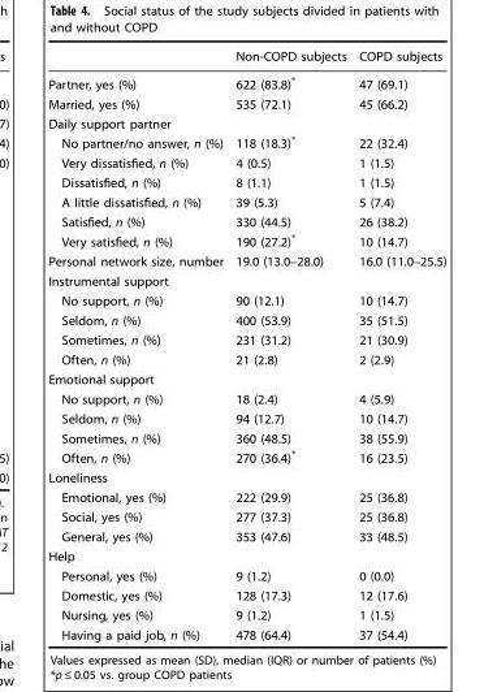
<table><thead><tr><td></td><td>Non-COPD subjects</td><td>COPD subjects</td></tr></thead><tbody><tr><td>Partner, yes (%)</td><td>622 (83.8)*</td><td>47 (69.1)</td></tr><tr><td>Married, yes (%)</td><td>535 (72.1)</td><td>45 (66.2)</td></tr><tr><td colspan="3">Daily support partner</td></tr><tr><td>No partner/no answer, n (%)</td><td>118 (18.3)*</td><td>22 (32.4)</td></tr><tr><td>Very dissatisfied, n (%)</td><td>4 (0.5)</td><td>1 (1.5)</td></tr><tr><td>Dissatisfied, n (%)</td><td>8 (1.1)</td><td>1 (1.5)</td></tr><tr><td>A little dissatisfied, n (%)</td><td>39 (5.3)</td><td>5 (7.4)</td></tr><tr><td>Satisfied, n (%)</td><td>330 (44.5)</td><td>26 (38.2)</td></tr><tr><td>Very satisfied, n (%)</td><td>190 (27.2)*</td><td>10 (14.7)</td></tr><tr><td>Personal network size, number</td><td>19.0 (13.0–28.0)</td><td>16.0 (11.0–25.5)</td></tr><tr><td colspan="3">Instrumental support</td></tr><tr><td>No support, n (%)</td><td>90 (12.1)</td><td>10 (14.7)</td></tr><tr><td>Seldom, n (%)</td><td>400 (53.9)</td><td>35 (51.5)</td></tr><tr><td>Sometimes, n (%)</td><td>231 (31.2)</td><td>21 (30.9)</td></tr><tr><td>Often, n (%)</td><td>21 (2.8)</td><td>2 (2.9)</td></tr><tr><td colspan="3">Emotional support</td></tr><tr><td>No support, n (%)</td><td>18 (2.4)</td><td>4 (5.9)</td></tr><tr><td>Seldom, n (%)</td><td>94 (12.7)</td><td>10 (14.7)</td></tr><tr><td>Sometimes, n (%)</td><td>360 (48.5)</td><td>38 (55.9)</td></tr><tr><td>Often, n (%)</td><td>270 (36.4)*</td><td>16 (23.5)</td></tr><tr><td colspan="3">Loneliness</td></tr><tr><td>Emotional, yes (%)</td><td>222 (29.9)</td><td>25 (36.8)</td></tr><tr><td>Social, yes (%)</td><td>277 (37.3)</td><td>25 (36.8)</td></tr><tr><td>General, yes (%)</td><td>353 (47.6)</td><td>33 (48.5)</td></tr><tr><td colspan="3">Help</td></tr><tr><td>Personal, yes (%)</td><td>9 (1.2)</td><td>0 (0.0)</td></tr><tr><td>Domestic, yes (%)</td><td>128 (17.3)</td><td>12 (17.6)</td></tr><tr><td>Nursing, yes (%)</td><td>9 (1.2)</td><td>1 (1.5)</td></tr><tr><td>Having a paid job, n (%)</td><td>478 (64.4)</td><td>37 (54.4)</td></tr></tbody></table>